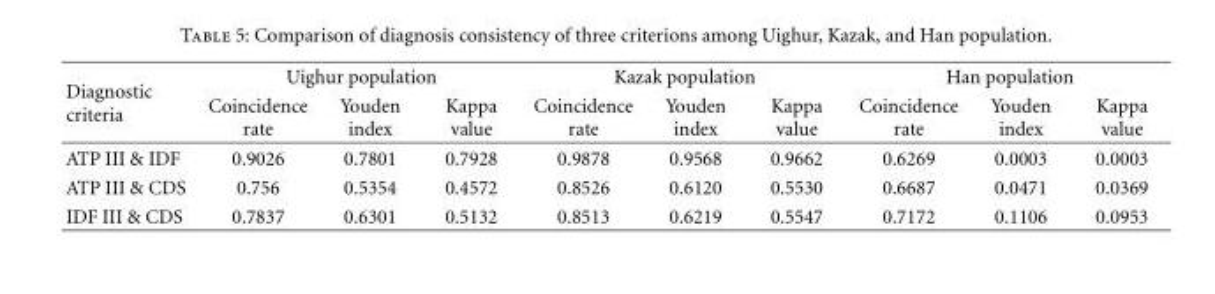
<table><thead><tr><td rowspan="2">Diagnostic criteria</td><td colspan="3">Uighur population</td><td colspan="3">Kazak population</td><td colspan="3">Han population</td></tr><tr><td>Coincidence rate</td><td>Youden index</td><td>Kappa value</td><td>Coincidence rate</td><td>Youden index</td><td>Kappa value</td><td>Coincidence rate</td><td>Youden index</td><td>Kappa value</td></tr></thead><tbody><tr><td>ATP III &amp; IDF</td><td>0.9026</td><td>0.7801</td><td>0.7928</td><td>0.9878</td><td>0.9568</td><td>0.9662</td><td>0.6269</td><td>0.0003</td><td>0.0003</td></tr><tr><td>ATP III &amp; CDS</td><td>0.756</td><td>0.5354</td><td>0.4572</td><td>0.8526</td><td>0.6120</td><td>0.5530</td><td>0.6687</td><td>0.0471</td><td>0.0369</td></tr><tr><td>IDF III &amp; CDS</td><td>0.7837</td><td>0.6301</td><td>0.5132</td><td>0.8513</td><td>0.6219</td><td>0.5547</td><td>0.7172</td><td>0.1106</td><td>0.0953</td></tr></tbody></table>